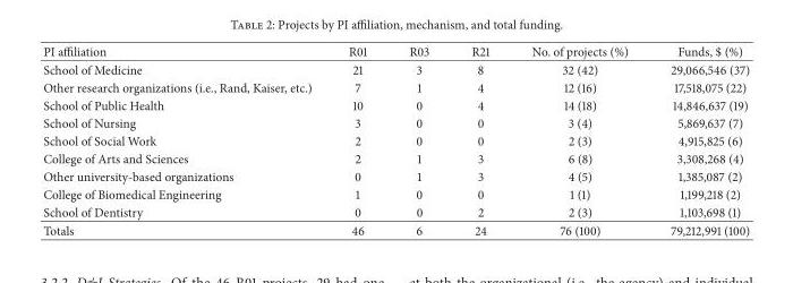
<table><thead><tr><td>PI affiliation</td><td>R01</td><td>R03</td><td>R21</td><td>No. of projects (%)</td><td>Funds, $ (%)</td></tr></thead><tbody><tr><td>School of Medicine</td><td>21</td><td>3</td><td>8</td><td>32 (42)</td><td>29,066,546 (37)</td></tr><tr><td>Other research organizations (i.e., Rand, Kaiser, etc.)</td><td>7</td><td>1</td><td>4</td><td>12 (16)</td><td>17,518,075 (22)</td></tr><tr><td>School of Public Health</td><td>10</td><td>0</td><td>4</td><td>14 (18)</td><td>14,846,637 (19)</td></tr><tr><td>School of Nursing</td><td>3</td><td>0</td><td>0</td><td>3 (4)</td><td>5,869,637 (7)</td></tr><tr><td>School of Social Work</td><td>2</td><td>0</td><td>0</td><td>2 (3)</td><td>4,915,825 (6)</td></tr><tr><td>College of Arts and Sciences</td><td>2</td><td>1</td><td>3</td><td>6 (8)</td><td>3,308,268 (4)</td></tr><tr><td>Other university-based organizations</td><td>0</td><td>1</td><td>3</td><td>4 (5)</td><td>1,385,087 (2)</td></tr><tr><td>College of Biomedical Engineering</td><td>1</td><td>0</td><td>0</td><td>1 (1)</td><td>1,199,218 (2)</td></tr><tr><td>School of Dentistry</td><td>0</td><td>0</td><td>2</td><td>2 (3)</td><td>1,103,698 (1)</td></tr><tr><td>Totals</td><td>46</td><td>6</td><td>24</td><td>76 (100)</td><td>79,212,991 (100)</td></tr></tbody></table>